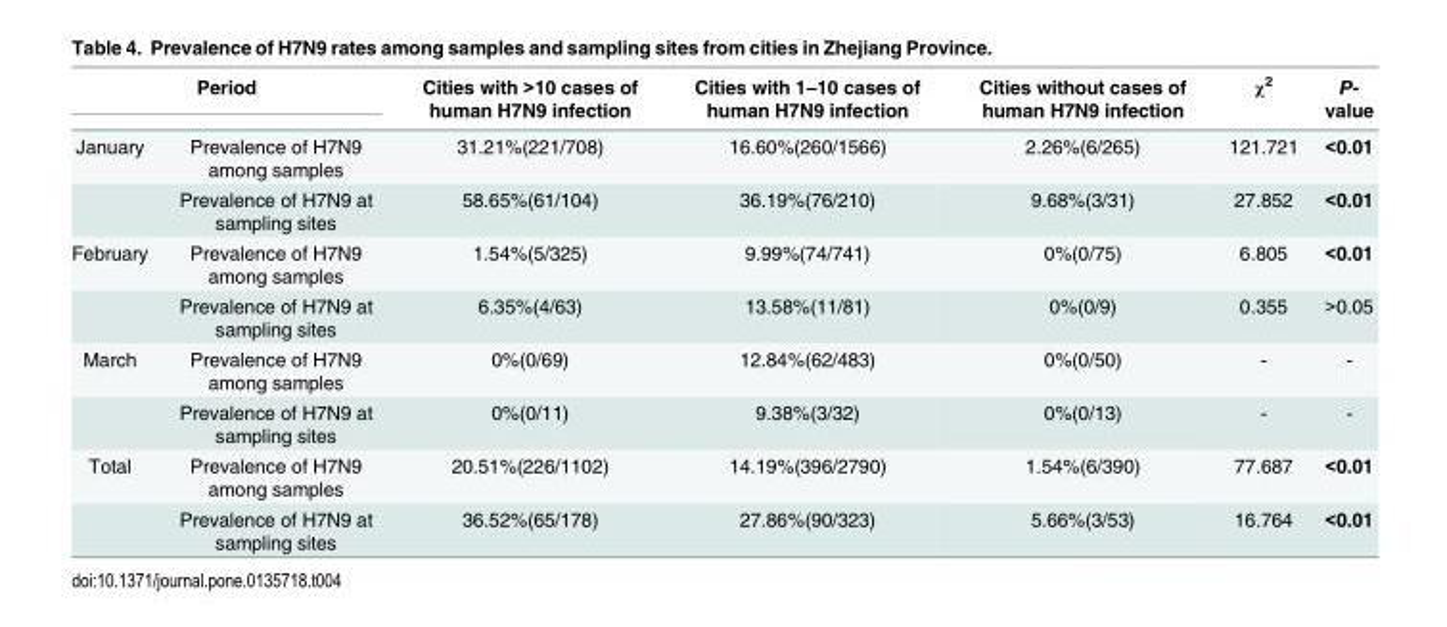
<table><thead><tr><td colspan="2">Period</td><td rowspan="2">Cities with &gt;10 cases of human H7N9 infection 31.21%(221/708)</td><td rowspan="2">Cities with 1–10 cases of human H7N9 infection 16.60%(260/1566)</td><td rowspan="2">Cities without cases of human H7N9 infection 2.26%(6/265)</td><td rowspan="2">χ<sup>2</sup> 121.721</td><td rowspan="2">P- value &lt;0.01</td></tr><tr><td>January</td><td>Prevalence of H7N9 among samples</td></tr></thead><tbody><tr><td></td><td>Prevalence of H7N9 at sampling sites</td><td>58.65%(61/104)</td><td>36.19%(76/210)</td><td>9.68%(3/31)</td><td>27.852</td><td>&lt;0.01</td></tr><tr><td rowspan="2">February</td><td>Prevalence of H7N9 among samples</td><td>1.54%(5/325)</td><td>9.99%(74/741)</td><td>0%(0/75)</td><td>6.805</td><td>&lt;0.01</td></tr><tr><td>Prevalence of H7N9 at sampling sites</td><td>6.35%(4/63)</td><td>13.58%(11/81)</td><td>0%(0/9)</td><td>0.355</td><td>&gt;0.05</td></tr><tr><td rowspan="2">March</td><td>Prevalence of H7N9 among samples</td><td>0%(0/69)</td><td>12.84%(62/483)</td><td>0%(0/50)</td><td>-</td><td>-</td></tr><tr><td>Prevalence of H7N9 at sampling sites</td><td>0%(0/11)</td><td>9.38%(3/32)</td><td>0%(0/13)</td><td>-</td><td>-</td></tr><tr><td rowspan="2">Total</td><td>Prevalence of H7N9 among samples</td><td>20.51%(226/1102)</td><td>14.19%(396/2790)</td><td>1.54%(6/390)</td><td>77.687</td><td>&lt;0.01</td></tr><tr><td>Prevalence of H7N9 at sampling sites</td><td>36.52%(65/178)</td><td>27.86%(90/323)</td><td>5.66%(3/53)</td><td>16.764</td><td>&lt;0.01</td></tr></tbody></table>